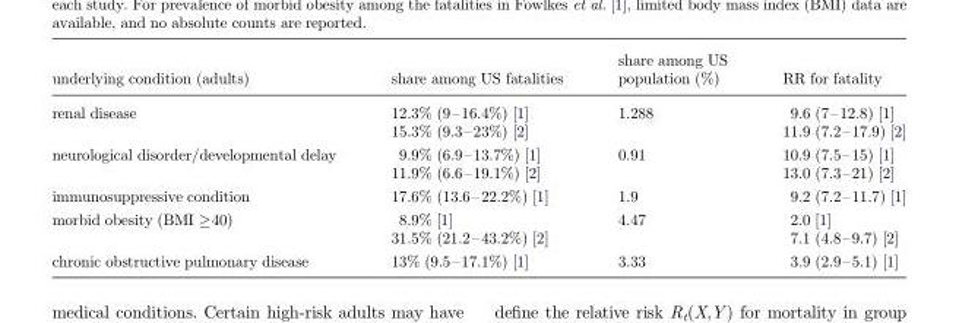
<table><thead><tr><td>underlying condition (adults)</td><td>share among US fatalities</td><td>share among US population (%)</td><td>RR for fatality</td></tr></thead><tbody><tr><td rowspan="2">renal disease</td><td>12.3% (9–16.4%) [1]</td><td rowspan="2">1.288</td><td>9.6 (7–12.8) [1]</td></tr><tr><td>15.3% (9.3–23%) [2]</td><td>11.9 (7.2–17.9) [2]</td></tr><tr><td rowspan="2">neurological disorder/developmental delay</td><td>9.9% (6.9–13.7%) [1]</td><td rowspan="2">0.91</td><td>10.9 (7.5–15) [1]</td></tr><tr><td>11.9% (6.6–19.1%) [2]</td><td>13.0 (7.3–21) [2]</td></tr><tr><td>immunosuppressive condition</td><td>17.6% (13.6–22.2%) [1]</td><td>1.9</td><td>9.2 (7.2–11.7) [1]</td></tr><tr><td rowspan="2">morbid obesity (BMI ≥40)</td><td>8.9% [1]</td><td rowspan="2">4.47</td><td>2.0 [1]</td></tr><tr><td>31.5% (21.2–43.2%) [2]</td><td>7.1 (4.8–9.7) [2]</td></tr><tr><td>chronic obstructive pulmonary disease</td><td>13% (9.5–17.1%) [1]</td><td>3.33</td><td>3.9 (2.9–5.1) [1]</td></tr></tbody></table>